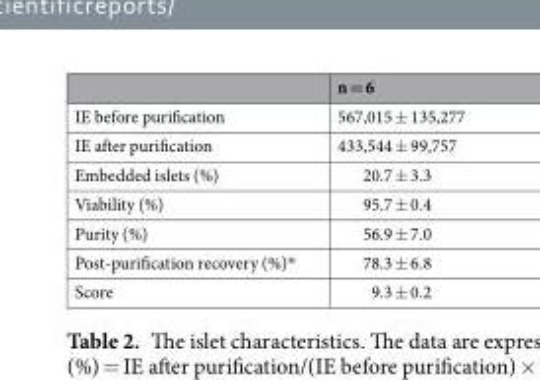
<table><thead><tr><td></td><td>n = 6</td></tr></thead><tbody><tr><td>IE before purification</td><td>567,015 ± 135,277</td></tr><tr><td>IE after purification</td><td>433,544 ± 99,757</td></tr><tr><td>Embedded islets (%)</td><td>20.7 ± 3.3</td></tr><tr><td>Viability (%)</td><td>95.7 ± 0.4</td></tr><tr><td>Purity (%)</td><td>56.9 ± 7.0</td></tr><tr><td>Post-purification recovery (%)*</td><td>78.3 ± 6.8</td></tr><tr><td>Score</td><td>9.3 ± 0.2</td></tr></tbody></table>